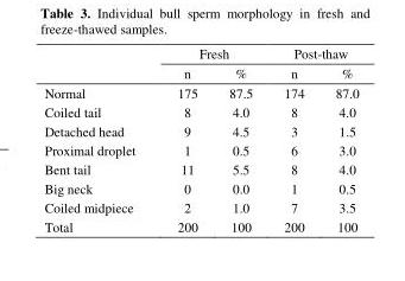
<table><thead><tr><td rowspan="2"></td><td colspan="2">Fresh</td><td colspan="2">Post-thaw</td></tr><tr><td>n</td><td>%</td><td>n</td><td>%</td></tr></thead><tbody><tr><td>Normal</td><td>175</td><td>87.5</td><td>174</td><td>87.0</td></tr><tr><td>Coiled tail</td><td>8</td><td>4.0</td><td>8</td><td>4.0</td></tr><tr><td>Detached head</td><td>9</td><td>4.5</td><td>3</td><td>1.5</td></tr><tr><td>Proximal droplet</td><td>1</td><td>0.5</td><td>6</td><td>3.0</td></tr><tr><td>Bent tail</td><td>11</td><td>5.5</td><td>8</td><td>4.0</td></tr><tr><td>Big neck</td><td>0</td><td>0.0</td><td>1</td><td>0.5</td></tr><tr><td>Coiled midpiece</td><td>2</td><td>1.0</td><td>7</td><td>3.5</td></tr><tr><td>Total</td><td>200</td><td>100</td><td>200</td><td>100</td></tr></tbody></table>